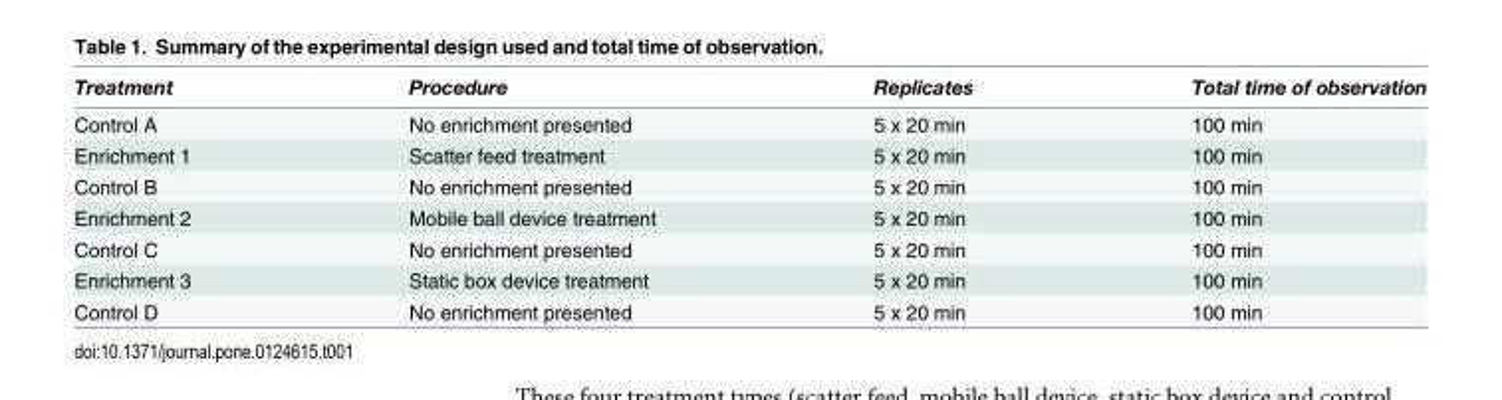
<table><thead><tr><td>Treatment</td><td>Procedure</td><td>Replicates</td><td>Total time of observation</td></tr></thead><tbody><tr><td>Control A</td><td>No enrichment presented</td><td>5 x 20 min</td><td>100 min</td></tr><tr><td>Enrichment 1</td><td>Scatter feed treatment</td><td>5 x 20 min</td><td>100 min</td></tr><tr><td>Control B</td><td>No enrichment presented</td><td>5 x 20 min</td><td>100 min</td></tr><tr><td>Enrichment 2</td><td>Mobile ball device treatment</td><td>5 x 20 min</td><td>100 min</td></tr><tr><td>Control C</td><td>No enrichment presented</td><td>5 x 20 min</td><td>100 min</td></tr><tr><td>Enrichment 3</td><td>Static box device treatment</td><td>5 x 20 min</td><td>100 min</td></tr><tr><td>Control D</td><td>No enrichment presented</td><td>5 x 20 min</td><td>100 min</td></tr></tbody></table>